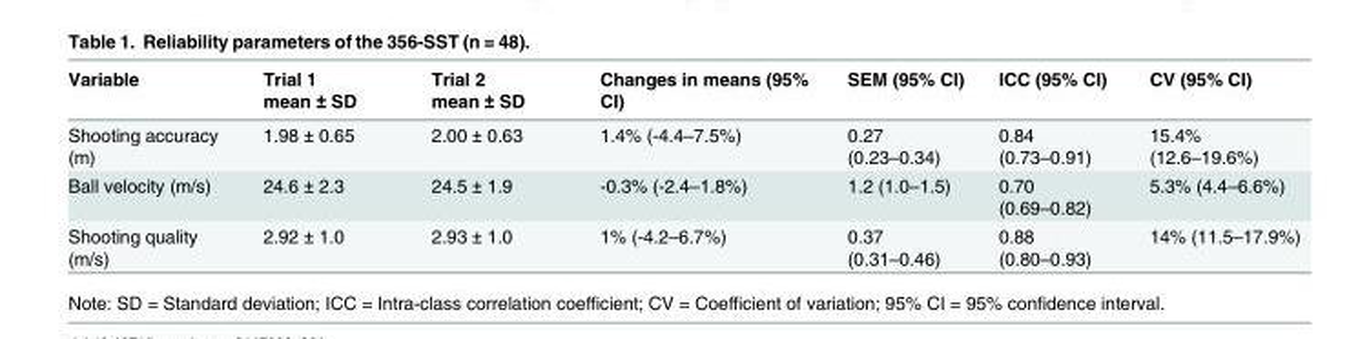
<table><thead><tr><td>Variable</td><td>Trial 1 mean ± SD</td><td>Trial 2 mean ± SD</td><td>Changes in means (95% CI)</td><td>SEM (95% CI)</td><td>ICC (95% CI)</td><td>CV (95% CI)</td></tr></thead><tbody><tr><td>Shooting accuracy (m)</td><td>1.98 ± 0.65</td><td>2.00 ± 0.63</td><td>1.4% (-4.4–7.5%)</td><td>0.27 (0.23–0.34)</td><td>0.84 (0.73–0.91)</td><td>15.4% (12.6–19.6%)</td></tr><tr><td>Ball velocity (m/s)</td><td>24.6 ± 2.3</td><td>24.5 ± 1.9</td><td>-0.3% (-2.4–1.8%)</td><td>1.2 (1.0–1.5)</td><td>0.70 (0.69–0.82)</td><td>5.3% (4.4–6.6%)</td></tr><tr><td>Shooting quality (m/s)</td><td>2.92 ± 1.0</td><td>2.93 ± 1.0</td><td>1% (-4.2–6.7%)</td><td>0.37 (0.31–0.46)</td><td>0.88 (0.80–0.93)</td><td>14% (11.5–17.9%)</td></tr></tbody></table>